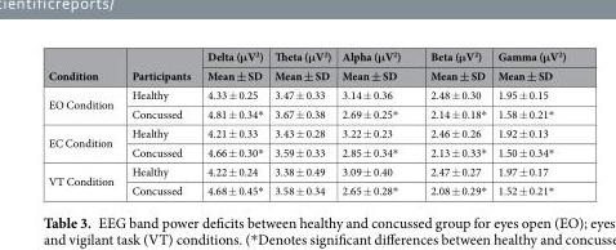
<table><thead><tr><td rowspan="2">Condition</td><td rowspan="2">Participants</td><td rowspan="2">Delta (μV<sup>2</sup>) Mean ± SD</td><td rowspan="2">Theta (μV<sup>2</sup>) Mean ± SD</td><td rowspan="2">Alpha (μV<sup>2</sup>) Mean ± SD</td><td rowspan="2">Beta (μV<sup>2</sup>) Mean ± SD</td><td rowspan="2">Gamma (μV<sup>2</sup>) Mean ± SD</td></tr><tr></tr></thead><tbody><tr><td rowspan="2">EO Condition</td><td>Healthy</td><td>4.33 ± 0.25</td><td>3.47 ± 0.33</td><td>3.14 ± 0.36</td><td>2.48 ± 0.30</td><td>1.95 ± 0.15</td></tr><tr><td>Concussed</td><td>4.81 ± 0.34*</td><td>3.67 ± 0.38</td><td>2.69 ± 0.25*</td><td>2.14 ± 0.18*</td><td>1.58 ± 0.21*</td></tr><tr><td rowspan="2">EC Condition</td><td>Healthy</td><td>4.21 ± 0.33</td><td>3.43 ± 0.28</td><td>3.22 ± 0.23</td><td>2.46 ± 0.26</td><td>1.92 ± 0.13</td></tr><tr><td>Concussed</td><td>4.66 ± 0.30*</td><td>3.59 ± 0.33</td><td>2.85 ± 0.34*</td><td>2.13 ± 0.33*</td><td>1.50 ± 0.34*</td></tr><tr><td rowspan="2">VT Condition</td><td>Healthy</td><td>4.22 ± 0.24</td><td>3.38 ± 0.49</td><td>3.09 ± 0.40</td><td>2.47 ± 0.27</td><td>1.97 ± 0.17</td></tr><tr><td>Concussed</td><td>4.68 ± 0.45*</td><td>3.58 ± 0.34</td><td>2.65 ± 0.28*</td><td>2.08 ± 0.29*</td><td>1.52 ± 0.21*</td></tr></tbody></table>